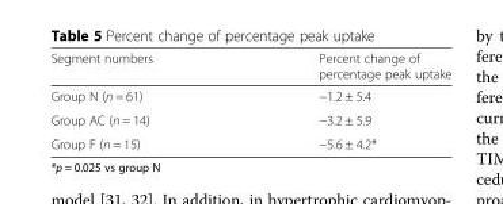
<table><thead><tr><td>Segment numbers</td><td>Percent change of percentage peak uptake</td></tr></thead><tbody><tr><td>Group N (n = 61)</td><td>−1.2 ± 5.4</td></tr><tr><td>Group AC (n = 14)</td><td>−3.2 ± 5.9</td></tr><tr><td>Group F (n = 15)</td><td>−5.6 ± 4.2*</td></tr></tbody></table>